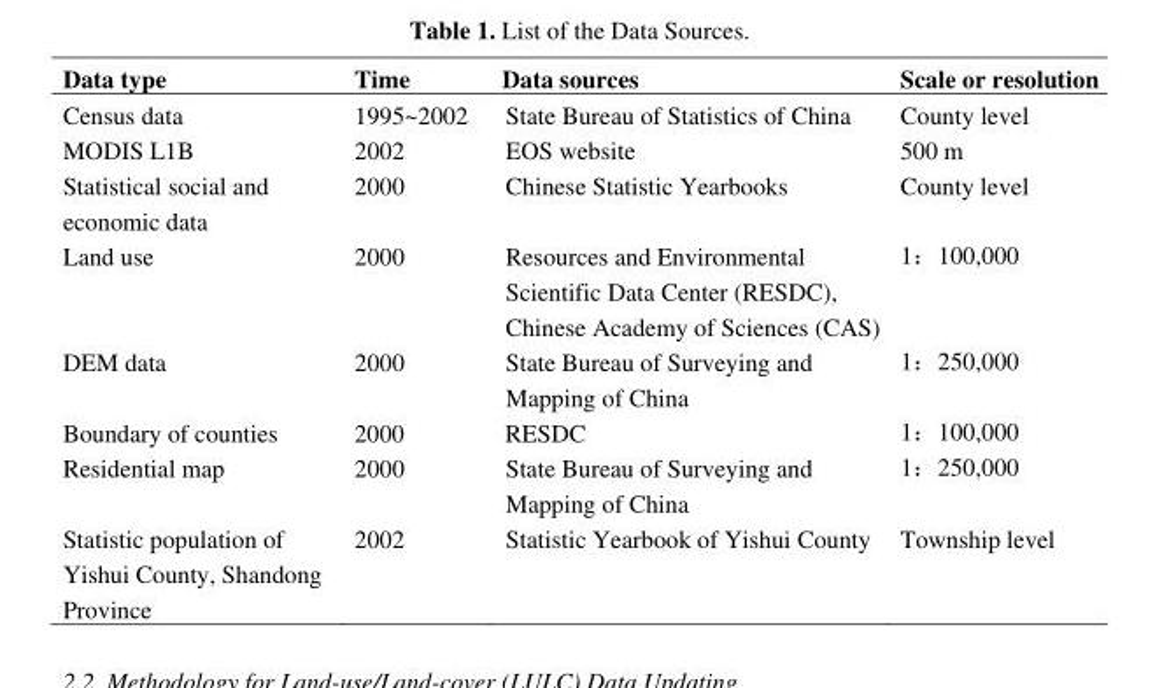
<table><thead><tr><td>Data type</td><td>Time</td><td>Data sources</td><td>Scale or resolution</td></tr></thead><tbody><tr><td>Census data</td><td>1995~2002</td><td>State Bureau of Statistics of China</td><td>County level</td></tr><tr><td>MODIS L1B</td><td>2002</td><td>EOS website</td><td>500 m</td></tr><tr><td>Statistical social and economic data</td><td>2000</td><td>Chinese Statistic Yearbooks</td><td>County level</td></tr><tr><td>Land use</td><td>2000</td><td>Resources and Environmental Scientific Data Center (RESDC), Chinese Academy of Sciences (CAS)</td><td>1：100,000</td></tr><tr><td>DEM data</td><td>2000</td><td>State Bureau of Surveying and Mapping of China</td><td>1：250,000</td></tr><tr><td>Boundary of counties</td><td>2000</td><td>RESDC</td><td>1：100,000</td></tr><tr><td>Residential map</td><td>2000</td><td>State Bureau of Surveying and Mapping of China</td><td>1：250,000</td></tr><tr><td>Statistic population of Yishui County, Shandong Province</td><td>2002</td><td>Statistic Yearbook of Yishui County</td><td>Township level</td></tr></tbody></table>